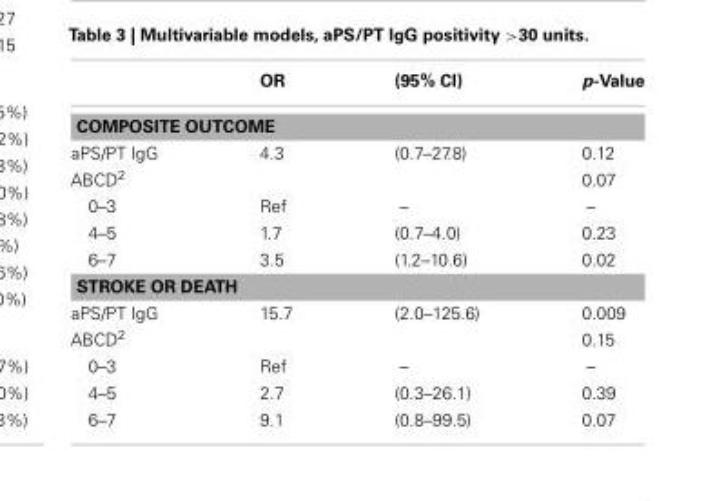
<table><thead><tr><td></td><td>OR</td><td>(95% CI)</td><td>p-Value</td></tr></thead><tbody><tr><td colspan="4">COMPOSITE OUTCOME</td></tr><tr><td>aPS/PT IgG</td><td>4.3</td><td>(0.7–27.8)</td><td>0.12</td></tr><tr><td>ABCD<sup>2</sup></td><td></td><td></td><td>0.07</td></tr><tr><td>0–3</td><td>Ref</td><td>–</td><td>–</td></tr><tr><td>4–5</td><td>1.7</td><td>(0.7–4.0)</td><td>0.23</td></tr><tr><td>6–7</td><td>3.5</td><td>(1.2–10.6)</td><td>0.02</td></tr><tr><td colspan="4">STROKE OR DEATH</td></tr><tr><td>aPS/PT IgG</td><td>15.7</td><td>(2.0–125.6)</td><td>0.009</td></tr><tr><td>ABCD<sup>2</sup></td><td></td><td></td><td>0.15</td></tr><tr><td>0–3</td><td>Ref</td><td>–</td><td>–</td></tr><tr><td>4–5</td><td>2.7</td><td>(0.3–26.1)</td><td>0.39</td></tr><tr><td>6–7</td><td>9.1</td><td>(0.8–99.5)</td><td>0.07</td></tr></tbody></table>